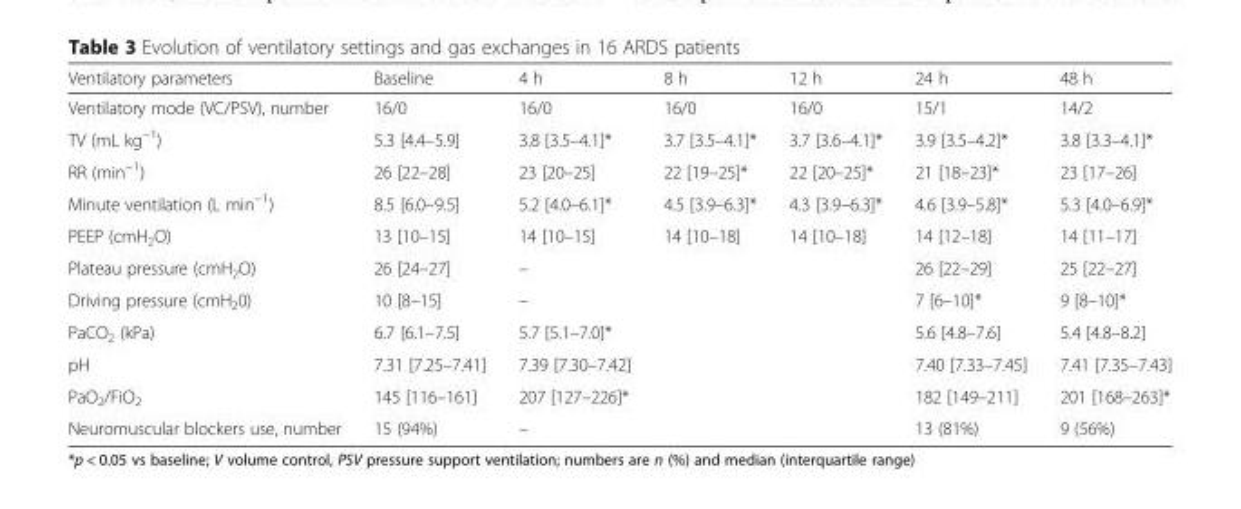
<table><thead><tr><td>Ventilatory parameters</td><td>Baseline</td><td>4 h</td><td>8 h</td><td>12 h</td><td>24 h</td><td>48 h</td></tr></thead><tbody><tr><td>Ventilatory mode (VC/PSV), number</td><td>16/0</td><td>16/0</td><td>16/0</td><td>16/0</td><td>15/1</td><td>14/2</td></tr><tr><td>TV (mL kg<sup>−1</sup>)</td><td>5.3 [4.4–5.9]</td><td>3.8 [3.5–4.1]*</td><td>3.7 [3.5–4.1]*</td><td>3.7 [3.6–4.1]*</td><td>3.9 [3.5–4.2]*</td><td>3.8 [3.3–4.1]*</td></tr><tr><td>RR (min<sup>−1</sup>)</td><td>26 [22–28]</td><td>23 [20–25]</td><td>22 [19–25]*</td><td>22 [20–25]*</td><td>21 [18–23]*</td><td>23 [17–26]</td></tr><tr><td>Minute ventilation (L min<sup>−1</sup>)</td><td>8.5 [6.0–9.5]</td><td>5.2 [4.0–6.1]*</td><td>4.5 [3.9–6.3]*</td><td>4.3 [3.9–6.3]*</td><td>4.6 [3.9–5.8]*</td><td>5.3 [4.0–6.9]*</td></tr><tr><td>PEEP (cmH<sub>2</sub>O)</td><td>13 [10–15]</td><td>14 [10–15]</td><td>14 [10–18]</td><td>14 [10–18]</td><td>14 [12–18]</td><td>14 [11–17]</td></tr><tr><td>Plateau pressure (cmH<sub>2</sub>O)</td><td>26 [24–27]</td><td>–</td><td rowspan="6"></td><td rowspan="6"></td><td>26 [22–29]</td><td>25 [22–27]</td></tr><tr><td>Driving pressure (cmH<sub>2</sub>0)</td><td>10 [8–15]</td><td>–</td><td>7 [6–10]*</td><td>9 [8–10]*</td></tr><tr><td>PaCO<sub>2</sub> (kPa)</td><td>6.7 [6.1–7.5]</td><td>5.7 [5.1–7.0]*</td><td>5.6 [4.8–7.6]</td><td>5.4 [4.8–8.2]</td></tr><tr><td>pH</td><td>7.31 [7.25–7.41]</td><td>7.39 [7.30–7.42]</td><td>7.40 [7.33–7.45]</td><td>7.41 [7.35–7.43]</td></tr><tr><td>PaO<sub>2</sub>/FiO<sub>2</sub></td><td>145 [116–161]</td><td>207 [127–226]*</td><td>182 [149–211]</td><td>201 [168–263]*</td></tr><tr><td>Neuromuscular blockers use, number</td><td>15 (94%)</td><td>–</td><td>13 (81%)</td><td>9 (56%)</td></tr></tbody></table>